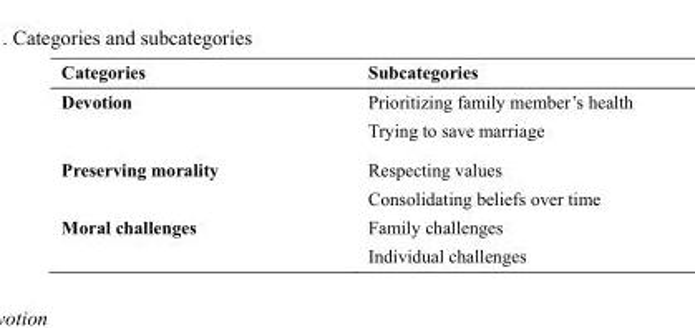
<table><thead><tr><td>Categories</td><td>Subcategories</td></tr></thead><tbody><tr><td>Devotion</td><td>Prioritizing family member’s health Trying to save marriage</td></tr><tr><td>Preserving morality</td><td>Respecting values Consolidating beliefs over time</td></tr><tr><td>Moral challenges</td><td>Family challenges Individual challenges</td></tr></tbody></table>